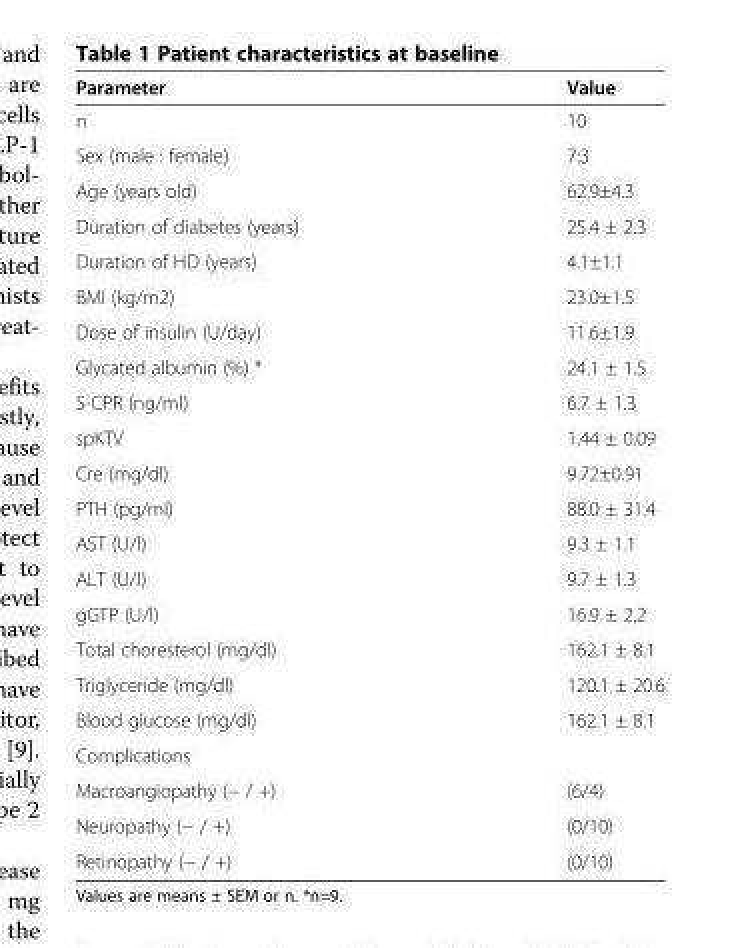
<table><thead><tr><td>Parameter</td><td>Value</td></tr></thead><tbody><tr><td>n</td><td>10</td></tr><tr><td>Sex (male : female)</td><td>7:3</td></tr><tr><td>Age (years old)</td><td>62.9±4.3</td></tr><tr><td>Duration of diabetes (years)</td><td>25.4 ± 2.3</td></tr><tr><td>Duration of HD (years)</td><td>4.1±1.1</td></tr><tr><td>BMI (kg/m2)</td><td>23.0±1.5</td></tr><tr><td>Dose of insulin (U/day)</td><td>11.6±1.9</td></tr><tr><td>Glycated albumin (%) *</td><td>24.1 ± 1.5</td></tr><tr><td>S-CPR (ng/ml)</td><td>6.7 ± 1.3</td></tr><tr><td>spKTV</td><td>1.44 ± 0.09</td></tr><tr><td>Cre (mg/dl)</td><td>9.72±0.91</td></tr><tr><td>PTH (pg/ml)</td><td>88.0 ± 31.4</td></tr><tr><td>AST (U/l)</td><td>9.3 ± 1.1</td></tr><tr><td>ALT (U/l)</td><td>9.7 ± 1.3</td></tr><tr><td>gGTP (U/l)</td><td>16.9 ± 2.2</td></tr><tr><td>Total choresterol (mg/dl)</td><td>162.1 ± 8.1</td></tr><tr><td>Triglyceride (mg/dl)</td><td>120.1 ± 20.6</td></tr><tr><td>Blood glucose (mg/dl)</td><td>162.1 ± 8.1</td></tr><tr><td colspan="2">Complications</td></tr><tr><td>Macroangiopathy (− / +)</td><td>(6/4)</td></tr><tr><td>Neuropathy (− / +)</td><td>(0/10)</td></tr><tr><td>Retinopathy (− / +)</td><td>(0/10)</td></tr></tbody></table>